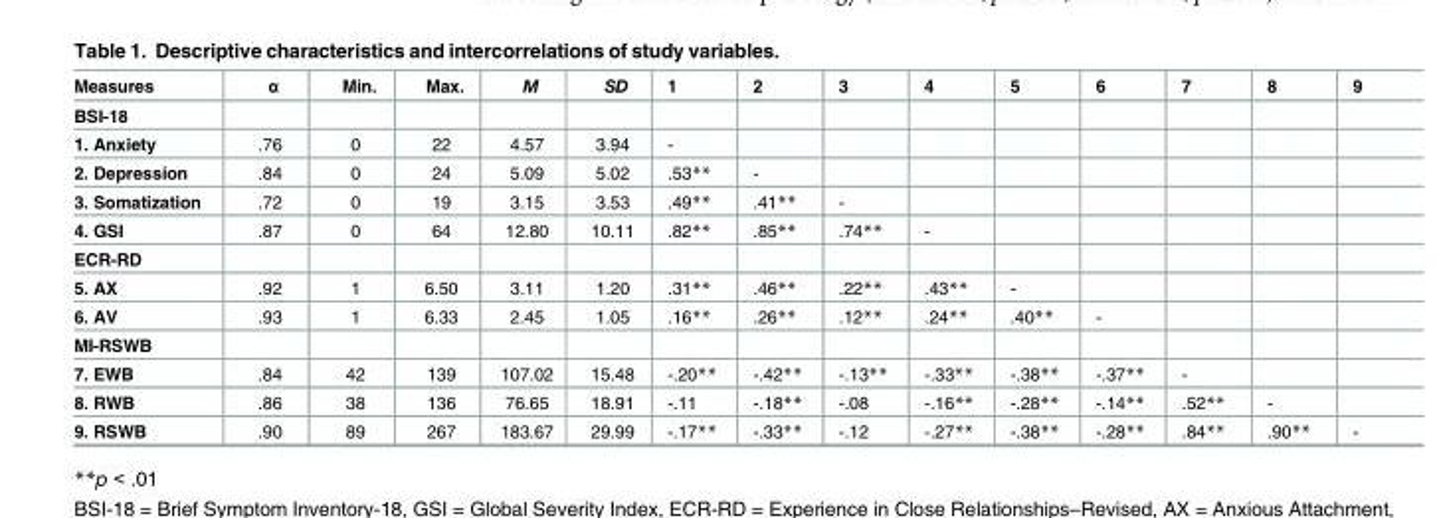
<table><thead><tr><td>Measures</td><td>α</td><td>Min.</td><td>Max.</td><td>M</td><td>SD</td><td>1</td><td>2</td><td>3</td><td>4</td><td>5</td><td>6</td><td>7</td><td>8</td><td>9</td></tr></thead><tbody><tr><td colspan="15">BSI-18</td></tr><tr><td>1. Anxiety</td><td>.76</td><td>0</td><td>22</td><td>4.57</td><td>3.94</td><td>-</td><td></td><td></td><td></td><td></td><td></td><td></td><td></td><td></td></tr><tr><td>2. Depression</td><td>.84</td><td>0</td><td>24</td><td>5.09</td><td>5.02</td><td>.53**</td><td>-</td><td></td><td></td><td></td><td></td><td></td><td></td><td></td></tr><tr><td>3. Somatization</td><td>.72</td><td>0</td><td>19</td><td>3.15</td><td>3.53</td><td>.49**</td><td>.41**</td><td>-</td><td></td><td></td><td></td><td></td><td></td><td></td></tr><tr><td>4. GSI</td><td>.87</td><td>0</td><td>64</td><td>12.80</td><td>10.11</td><td>.82**</td><td>.85**</td><td>.74**</td><td>-</td><td></td><td></td><td></td><td></td><td></td></tr><tr><td colspan="15">ECR-RD</td></tr><tr><td>5. AX</td><td>.92</td><td>1</td><td>6.50</td><td>3.11</td><td>1.20</td><td>.31**</td><td>.46**</td><td>.22**</td><td>.43**</td><td>-</td><td></td><td></td><td></td><td></td></tr><tr><td>6. AV</td><td>.93</td><td>1</td><td>6.33</td><td>2.45</td><td>1.05</td><td>.16**</td><td>.26**</td><td>.12**</td><td>.24**</td><td>.40**</td><td>-</td><td></td><td></td><td></td></tr><tr><td colspan="15">MI-RSWB</td></tr><tr><td>7. EWB</td><td>.84</td><td>42</td><td>139</td><td>107.02</td><td>15.48</td><td>-.20**</td><td>-.42**</td><td>-.13**</td><td>-.33**</td><td>-.38**</td><td>-.37**</td><td>-</td><td></td><td></td></tr><tr><td>8. RWB</td><td>.86</td><td>38</td><td>136</td><td>76.65</td><td>18.91</td><td>-.11</td><td>-.18**</td><td>-.08</td><td>-.16**</td><td>-.28**</td><td>-.14**</td><td>.52**</td><td>-</td><td></td></tr><tr><td>9. RSWB</td><td>.90</td><td>89</td><td>267</td><td>183.67</td><td>29.99</td><td>-.17**</td><td>-.33**</td><td>-.12</td><td>-.27**</td><td>-.38**</td><td>-.28**</td><td>.84**</td><td>.90**</td><td>-</td></tr></tbody></table>